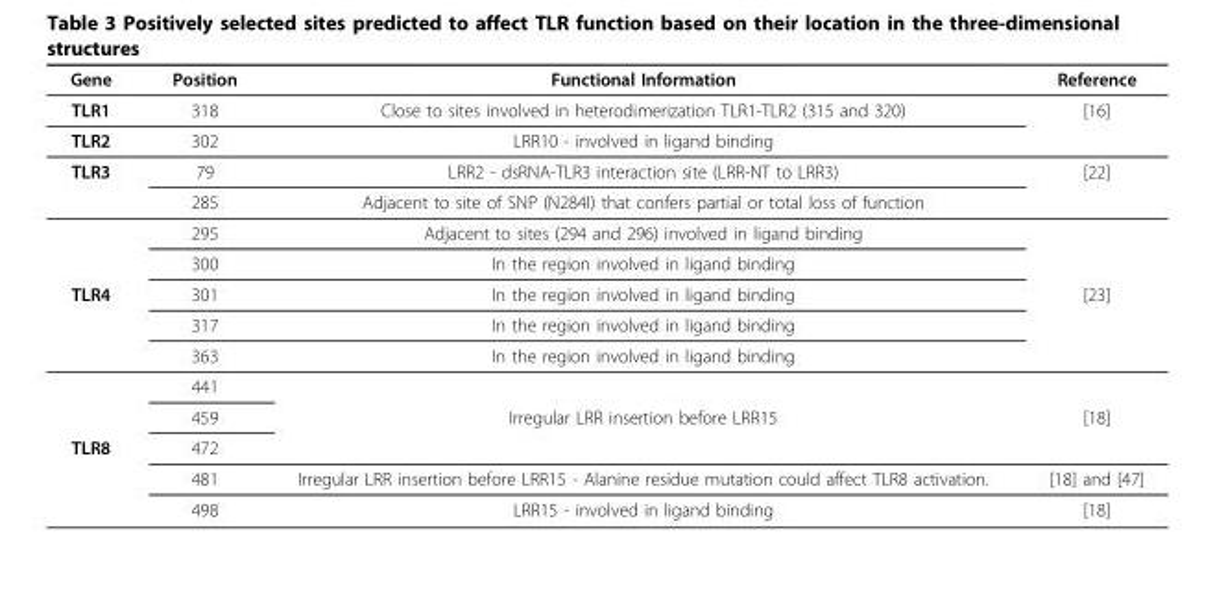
<table><thead><tr><td>Gene</td><td>Position</td><td>Functional Information</td><td>Reference</td></tr></thead><tbody><tr><td>TLR1</td><td>318</td><td>Close to sites involved in heterodimerization TLR1-TLR2 (315 and 320)</td><td>[16]</td></tr><tr><td>TLR2</td><td>302</td><td>LRR10 - involved in ligand binding</td><td></td></tr><tr><td rowspan="4">TLR3</td><td>79</td><td>LRR2 - dsRNA-TLR3 interaction site (LRR-NT to LRR3)</td><td>[22]</td></tr><tr><td>285</td><td>Adjacent to site of SNP (N284I) that confers partial or total loss of function</td><td></td></tr><tr><td>295</td><td>Adjacent to sites (294 and 296) involved in ligand binding</td><td></td></tr><tr><td>300</td><td>In the region involved in ligand binding</td><td></td></tr><tr><td rowspan="5">TLR4</td><td>301</td><td>In the region involved in ligand binding</td><td>[23]</td></tr><tr><td>317</td><td>In the region involved in ligand binding</td><td></td></tr><tr><td>363</td><td>In the region involved in ligand binding</td><td></td></tr><tr><td>441</td><td></td><td></td></tr><tr><td>459</td><td>Irregular LRR insertion before LRR15</td><td>[18]</td></tr><tr><td rowspan="3">TLR8</td><td>472</td><td></td><td></td></tr><tr><td>481</td><td>Irregular LRR insertion before LRR15 - Alanine residue mutation could affect TLR8 activation.</td><td>[18] and [47]</td></tr><tr><td>498</td><td>LRR15 - involved in ligand binding</td><td>[18]</td></tr></tbody></table>